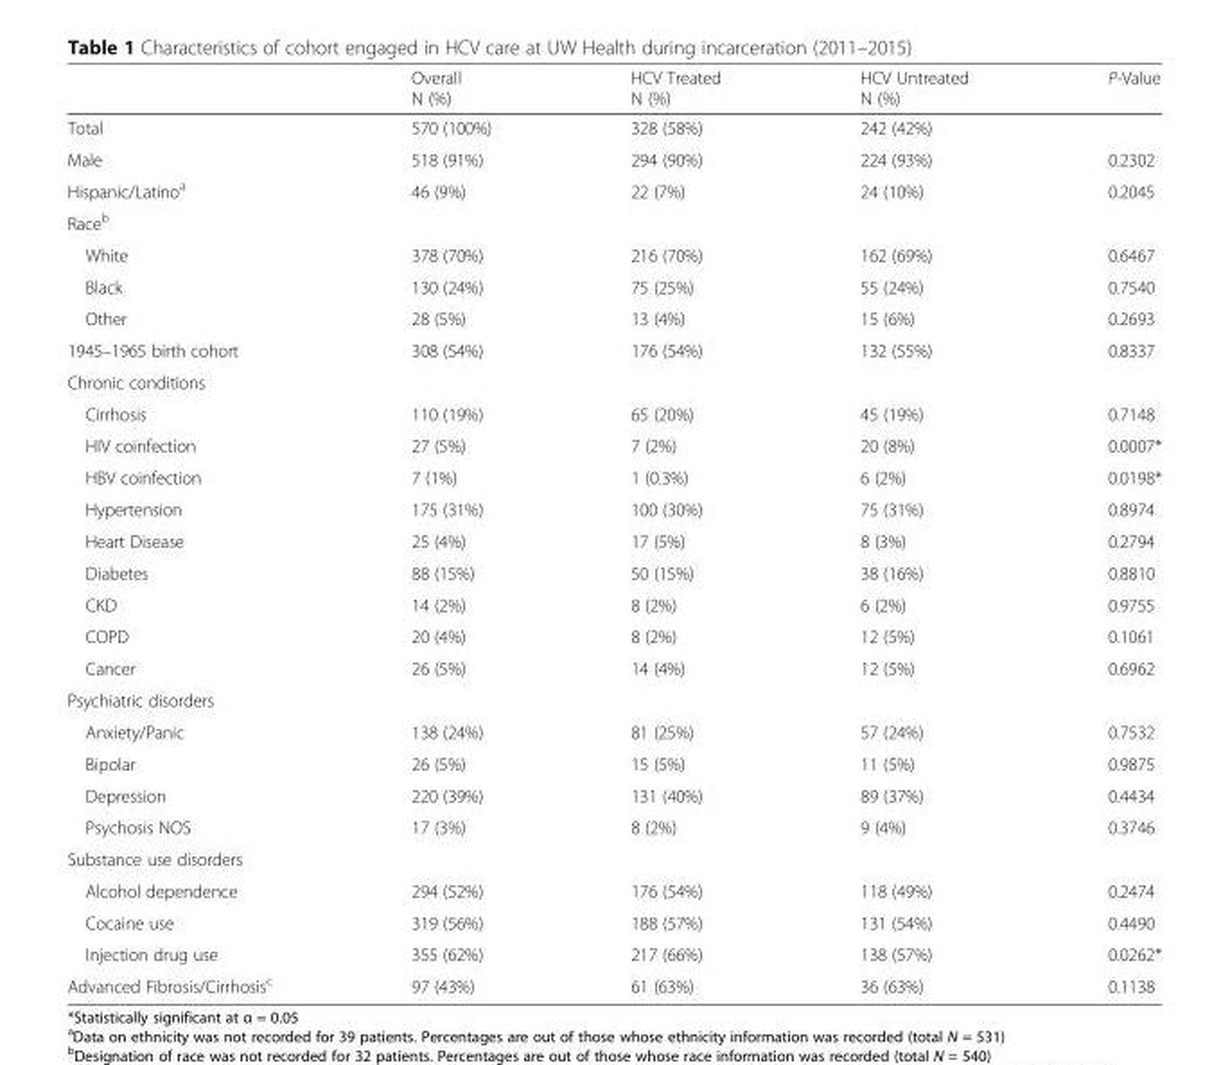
<table><thead><tr><td></td><td>Overall N (%)</td><td>HCV Treated N (%)</td><td>HCV Untreated N (%)</td><td>P-Value</td></tr></thead><tbody><tr><td>Total</td><td>570 (100%)</td><td>328 (58%)</td><td>242 (42%)</td><td></td></tr><tr><td>Male</td><td>518 (91%)</td><td>294 (90%)</td><td>224 (93%)</td><td>0.2302</td></tr><tr><td>Hispanic/Latino<sup>a</sup></td><td>46 (9%)</td><td>22 (7%)</td><td>24 (10%)</td><td>0.2045</td></tr><tr><td colspan="5">Race<sup>b</sup></td></tr><tr><td>White</td><td>378 (70%)</td><td>216 (70%)</td><td>162 (69%)</td><td>0.6467</td></tr><tr><td>Black</td><td>130 (24%)</td><td>75 (25%)</td><td>55 (24%)</td><td>0.7540</td></tr><tr><td>Other</td><td>28 (5%)</td><td>13 (4%)</td><td>15 (6%)</td><td>0.2693</td></tr><tr><td>1945–1965 birth cohort</td><td>308 (54%)</td><td>176 (54%)</td><td>132 (55%)</td><td>0.8337</td></tr><tr><td colspan="5">Chronic conditions</td></tr><tr><td>Cirrhosis</td><td>110 (19%)</td><td>65 (20%)</td><td>45 (19%)</td><td>0.7148</td></tr><tr><td>HIV coinfection</td><td>27 (5%)</td><td>7 (2%)</td><td>20 (8%)</td><td>0.0007*</td></tr><tr><td>HBV coinfection</td><td>7 (1%)</td><td>1 (0.3%)</td><td>6 (2%)</td><td>0.0198*</td></tr><tr><td>Hypertension</td><td>175 (31%)</td><td>100 (30%)</td><td>75 (31%)</td><td>0.8974</td></tr><tr><td>Heart Disease</td><td>25 (4%)</td><td>17 (5%)</td><td>8 (3%)</td><td>0.2794</td></tr><tr><td>Diabetes</td><td>88 (15%)</td><td>50 (15%)</td><td>38 (16%)</td><td>0.8810</td></tr><tr><td>CKD</td><td>14 (2%)</td><td>8 (2%)</td><td>6 (2%)</td><td>0.9755</td></tr><tr><td>COPD</td><td>20 (4%)</td><td>8 (2%)</td><td>12 (5%)</td><td>0.1061</td></tr><tr><td>Cancer</td><td>26 (5%)</td><td>14 (4%)</td><td>12 (5%)</td><td>0.6962</td></tr><tr><td colspan="5">Psychiatric disorders</td></tr><tr><td>Anxiety/Panic</td><td>138 (24%)</td><td>81 (25%)</td><td>57 (24%)</td><td>0.7532</td></tr><tr><td>Bipolar</td><td>26 (5%)</td><td>15 (5%)</td><td>11 (5%)</td><td>0.9875</td></tr><tr><td>Depression</td><td>220 (39%)</td><td>131 (40%)</td><td>89 (37%)</td><td>0.4434</td></tr><tr><td>Psychosis NOS</td><td>17 (3%)</td><td>8 (2%)</td><td>9 (4%)</td><td>0.3746</td></tr><tr><td colspan="5">Substance use disorders</td></tr><tr><td>Alcohol dependence</td><td>294 (52%)</td><td>176 (54%)</td><td>118 (49%)</td><td>0.2474</td></tr><tr><td>Cocaine use</td><td>319 (56%)</td><td>188 (57%)</td><td>131 (54%)</td><td>0.4490</td></tr><tr><td>Injection drug use</td><td>355 (62%)</td><td>217 (66%)</td><td>138 (57%)</td><td>0.0262*</td></tr><tr><td>Advanced Fibrosis/Cirrhosis<sup>c</sup></td><td>97 (43%)</td><td>61 (63%)</td><td>36 (63%)</td><td>0.1138</td></tr></tbody></table>